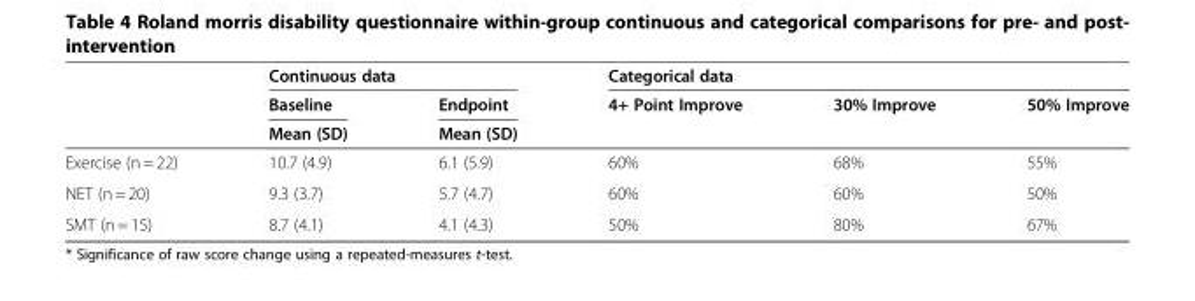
<table><thead><tr><td rowspan="3"></td><td colspan="2">Continuous data</td><td colspan="3">Categorical data</td></tr><tr><td rowspan="2">Baseline Mean (SD)</td><td rowspan="2">Endpoint Mean (SD)</td><td rowspan="2">4+ Point Improve</td><td rowspan="2">30% Improve</td><td rowspan="2">50% Improve</td></tr><tr></tr></thead><tbody><tr><td>Exercise (n = 22)</td><td>10.7 (4.9)</td><td>6.1 (5.9)</td><td>60%</td><td>68%</td><td>55%</td></tr><tr><td>NET (n = 20)</td><td>9.3 (3.7)</td><td>5.7 (4.7)</td><td>60%</td><td>60%</td><td>50%</td></tr><tr><td>SMT (n = 15)</td><td>8.7 (4.1)</td><td>4.1 (4.3)</td><td>50%</td><td>80%</td><td>67%</td></tr></tbody></table>